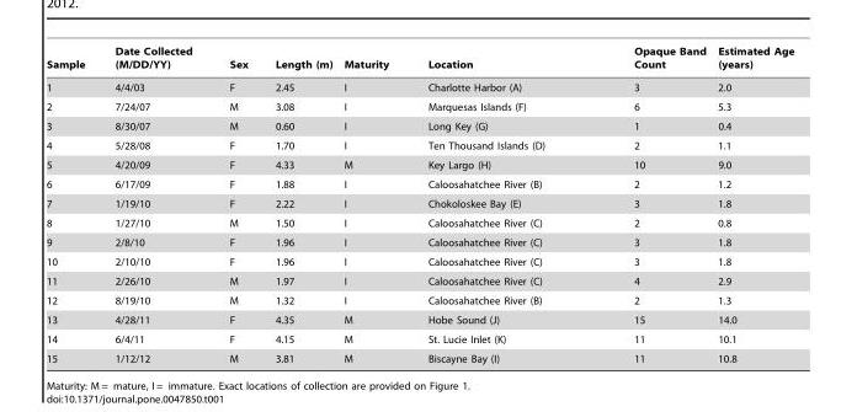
<table><thead><tr><td>Sample</td><td>Date Collected (M/DD/YY)</td><td>Sex</td><td>Length (m)</td><td>Maturity</td><td>Location</td><td>Opaque Band Count</td><td>Estimated Age (years)</td></tr></thead><tbody><tr><td>1</td><td>4/4/03</td><td>F</td><td>2.45</td><td>I</td><td>Charlotte Harbor (A)</td><td>3</td><td>2.0</td></tr><tr><td>2</td><td>7/24/07</td><td>M</td><td>3.08</td><td>I</td><td>Marquesas Islands (F)</td><td>6</td><td>5.3</td></tr><tr><td>3</td><td>8/30/07</td><td>M</td><td>0.60</td><td>I</td><td>Long Key (G)</td><td>1</td><td>0.4</td></tr><tr><td>4</td><td>5/28/08</td><td>F</td><td>1.70</td><td>I</td><td>Ten Thousand Islands (D)</td><td>2</td><td>1.1</td></tr><tr><td>5</td><td>4/20/09</td><td>F</td><td>4.33</td><td>M</td><td>Key Largo (H)</td><td>10</td><td>9.0</td></tr><tr><td>6</td><td>6/17/09</td><td>F</td><td>1.88</td><td>I</td><td>Caloosahatchee River (B)</td><td>2</td><td>1.2</td></tr><tr><td>7</td><td>1/19/10</td><td>F</td><td>2.22</td><td>I</td><td>Chokoloskee Bay (E)</td><td>3</td><td>1.8</td></tr><tr><td>8</td><td>1/27/10</td><td>M</td><td>1.50</td><td>I</td><td>Caloosahatchee River (C)</td><td>2</td><td>0.8</td></tr><tr><td>9</td><td>2/8/10</td><td>F</td><td>1.96</td><td>I</td><td>Caloosahatchee River (C)</td><td>3</td><td>1.8</td></tr><tr><td>10</td><td>2/10/10</td><td>F</td><td>1.96</td><td>I</td><td>Caloosahatchee River (C)</td><td>3</td><td>1.8</td></tr><tr><td>11</td><td>2/26/10</td><td>M</td><td>1.97</td><td>I</td><td>Caloosahatchee River (C)</td><td>4</td><td>2.9</td></tr><tr><td>12</td><td>8/19/10</td><td>M</td><td>1.32</td><td>I</td><td>Caloosahatchee River (B)</td><td>2</td><td>1.3</td></tr><tr><td>13</td><td>4/28/11</td><td>F</td><td>4.35</td><td>M</td><td>Hobe Sound (J)</td><td>15</td><td>14.0</td></tr><tr><td>14</td><td>6/4/11</td><td>F</td><td>4.15</td><td>M</td><td>St. Lucie Inlet (K)</td><td>11</td><td>10.1</td></tr><tr><td>15</td><td>1/12/12</td><td>M</td><td>3.81</td><td>M</td><td>Biscayne Bay (I)</td><td>11</td><td>10.8</td></tr></tbody></table>